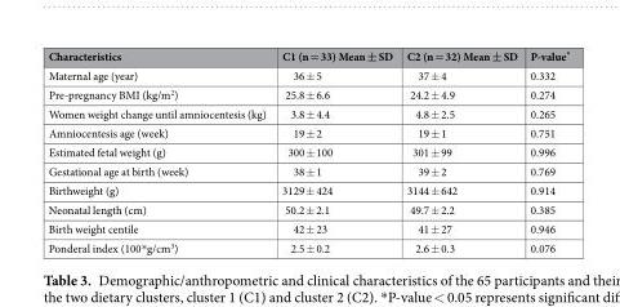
<table><thead><tr><td>Characteristics</td><td>C1 (n = 33) Mean ± SD</td><td>C2 (n = 32) Mean ± SD</td><td>P-value*</td></tr></thead><tbody><tr><td>Maternal age (year)</td><td>36 ± 5</td><td>37 ± 4</td><td>0.332</td></tr><tr><td>Pre-pregnancy BMI (kg/m<sup>2</sup>)</td><td>25.8 ± 6.6</td><td>24.2 ± 4.9</td><td>0.274</td></tr><tr><td>Women weight change until amniocentesis (kg)</td><td>3.8 ± 4.4</td><td>4.8 ± 2.5</td><td>0.265</td></tr><tr><td>Amniocentesis age (week)</td><td>19 ± 2</td><td>19 ± 1</td><td>0.751</td></tr><tr><td>Estimated fetal weight (g)</td><td>300 ± 100</td><td>301 ± 99</td><td>0.996</td></tr><tr><td>Gestational age at birth (week)</td><td>38 ± 1</td><td>39 ± 2</td><td>0.769</td></tr><tr><td>Birthweight (g)</td><td>3129 ± 424</td><td>3144 ± 642</td><td>0.914</td></tr><tr><td>Neonatal length (cm)</td><td>50.2 ± 2.1</td><td>49.7 ± 2.2</td><td>0.385</td></tr><tr><td>Birth weight centile</td><td>42 ± 23</td><td>41 ± 27</td><td>0.946</td></tr><tr><td>Ponderal index (100*g/cm<sup>3</sup>)</td><td>2.5 ± 0.2</td><td>2.6 ± 0.3</td><td>0.076</td></tr></tbody></table>